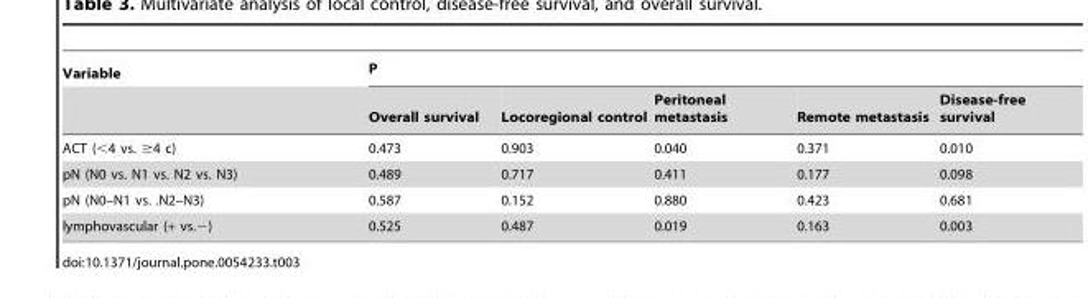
<table><thead><tr><td rowspan="2">Variable</td><td colspan="5">P</td></tr><tr><td>Overall survival</td><td>Locoregional control</td><td>Peritoneal metastasis</td><td>Remote metastasis</td><td>Disease-free survival</td></tr></thead><tbody><tr><td>ACT (&lt;4 vs. ≥4 c)</td><td>0.473</td><td>0.903</td><td>0.040</td><td>0.371</td><td>0.010</td></tr><tr><td>pN (N0 vs. N1 vs. N2 vs. N3)</td><td>0.489</td><td>0.717</td><td>0.411</td><td>0.177</td><td>0.098</td></tr><tr><td>pN (N0–N1 vs. .N2–N3)</td><td>0.587</td><td>0.152</td><td>0.880</td><td>0.423</td><td>0.681</td></tr><tr><td>lymphovascular (+ vs.−)</td><td>0.525</td><td>0.487</td><td>0.019</td><td>0.163</td><td>0.003</td></tr></tbody></table>